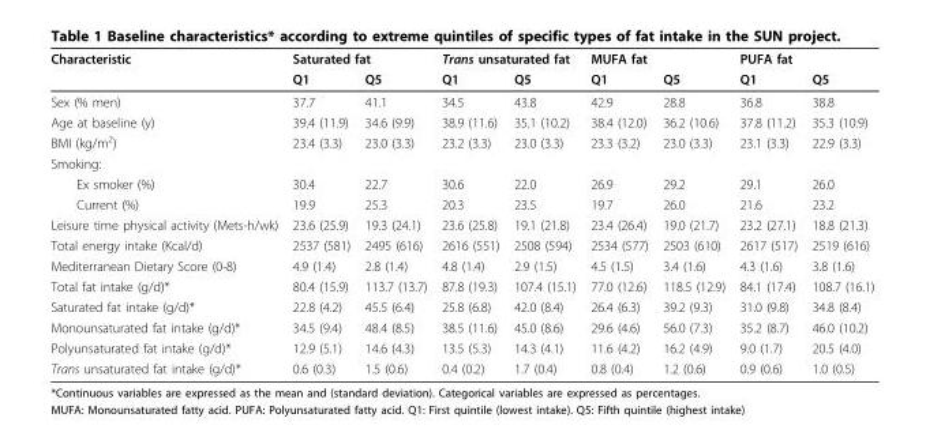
<table><thead><tr><td rowspan="2">Characteristic</td><td colspan="2">Saturated fat</td><td colspan="2">Trans unsaturated fat</td><td colspan="2">MUFA fat</td><td colspan="2">PUFA fat</td></tr><tr><td>Q1</td><td>Q5</td><td>Q1</td><td>Q5</td><td>Q1</td><td>Q5</td><td>Q1</td><td>Q5</td></tr></thead><tbody><tr><td>Sex (% men)</td><td>37.7</td><td>41.1</td><td>34.5</td><td>43.8</td><td>42.9</td><td>28.8</td><td>36.8</td><td>38.8</td></tr><tr><td>Age at baseline (y)</td><td>39.4 (11.9)</td><td>34.6 (9.9)</td><td>38.9 (11.6)</td><td>35.1 (10.2)</td><td>38.4 (12.0)</td><td>36.2 (10.6)</td><td>37.8 (11.2)</td><td>35.3 (10.9)</td></tr><tr><td>BMI (kg/m<sup>2</sup>)</td><td>23.4 (3.3)</td><td>23.0 (3.3)</td><td>23.2 (3.3)</td><td>23.0 (3.3)</td><td>23.3 (3.2)</td><td>23.0 (3.3)</td><td>23.1 (3.3)</td><td>22.9 (3.3)</td></tr><tr><td colspan="9">Smoking:</td></tr><tr><td>Ex smoker (%)</td><td>30.4</td><td>22.7</td><td>30.6</td><td>22.0</td><td>26.9</td><td>29.2</td><td>29.1</td><td>26.0</td></tr><tr><td>Current (%)</td><td>19.9</td><td>25.3</td><td>20.3</td><td>23.5</td><td>19.7</td><td>26.0</td><td>21.6</td><td>23.2</td></tr><tr><td>Leisure time physical activity (Mets-h/wk)</td><td>23.6 (25.9)</td><td>19.3 (24.1)</td><td>23.6 (25.8)</td><td>19.1 (21.8)</td><td>23.4 (26.4)</td><td>19.0 (21.7)</td><td>23.2 (27.1)</td><td>18.8 (21.3)</td></tr><tr><td>Total energy intake (Kcal/d)</td><td>2537 (581)</td><td>2495 (616)</td><td>2616 (551)</td><td>2508 (594)</td><td>2534 (577)</td><td>2503 (610)</td><td>2617 (517)</td><td>2519 (616)</td></tr><tr><td>Mediterranean Dietary Score (0-8)</td><td>4.9 (1.4)</td><td>2.8 (1.4)</td><td>4.8 (1.4)</td><td>2.9 (1.5)</td><td>4.5 (1.5)</td><td>3.4 (1.6)</td><td>4.3 (1.6)</td><td>3.8 (1.6)</td></tr><tr><td>Total fat intake (g/d)*</td><td>80.4 (15.9)</td><td>113.7 (13.7)</td><td>87.8 (19.3)</td><td>107.4 (15.1)</td><td>77.0 (12.6)</td><td>118.5 (12.9)</td><td>84.1 (17.4)</td><td>108.7 (16.1)</td></tr><tr><td>Saturated fat intake (g/d)*</td><td>22.8 (4.2)</td><td>45.5 (6.4)</td><td>25.8 (6.8)</td><td>42.0 (8.4)</td><td>26.4 (6.3)</td><td>39.2 (9.3)</td><td>31.0 (9.8)</td><td>34.8 (8.4)</td></tr><tr><td>Monounsaturated fat intake (g/d)*</td><td>34.5 (9.4)</td><td>48.4 (8.5)</td><td>38.5 (11.6)</td><td>45.0 (8.6)</td><td>29.6 (4.6)</td><td>56.0 (7.3)</td><td>35.2 (8.7)</td><td>46.0 (10.2)</td></tr><tr><td>Polyunsaturated fat intake (g/d)*</td><td>12.9 (5.1)</td><td>14.6 (4.3)</td><td>13.5 (5.3)</td><td>14.3 (4.1)</td><td>11.6 (4.2)</td><td>16.2 (4.9)</td><td>9.0 (1.7)</td><td>20.5 (4.0)</td></tr><tr><td>Trans unsaturated fat intake (g/d)*</td><td>0.6 (0.3)</td><td>1.5 (0.6)</td><td>0.4 (0.2)</td><td>1.7 (0.4)</td><td>0.8 (0.4)</td><td>1.2 (0.6)</td><td>0.9 (0.6)</td><td>1.0 (0.5)</td></tr></tbody></table>